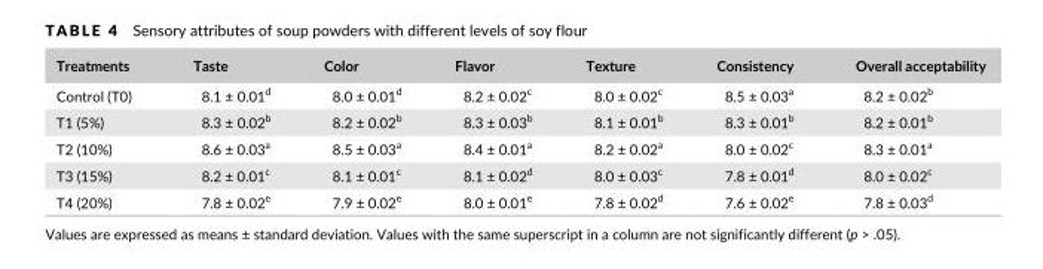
<table><thead><tr><td>Treatments</td><td>Taste</td><td>Color</td><td>Flavor</td><td>Texture</td><td>Consistency</td><td>Overall acceptability</td></tr></thead><tbody><tr><td>Control (T0)</td><td>8.1 ± 0.01<sup>d</sup></td><td>8.0 ± 0.01<sup>d</sup></td><td>8.2 ± 0.02<sup>c</sup></td><td>8.0 ± 0.02<sup>c</sup></td><td>8.5 ± 0.03<sup>a</sup></td><td>8.2 ± 0.02<sup>b</sup></td></tr><tr><td>T1 (5%)</td><td>8.3 ± 0.02<sup>b</sup></td><td>8.2 ± 0.02<sup>b</sup></td><td>8.3 ± 0.03<sup>b</sup></td><td>8.1 ± 0.01<sup>b</sup></td><td>8.3 ± 0.01<sup>b</sup></td><td>8.2 ± 0.01<sup>b</sup></td></tr><tr><td>T2 (10%)</td><td>8.6 ± 0.03<sup>a</sup></td><td>8.5 ± 0.03<sup>a</sup></td><td>8.4 ± 0.01<sup>a</sup></td><td>8.2 ± 0.02<sup>a</sup></td><td>8.0 ± 0.02<sup>c</sup></td><td>8.3 ± 0.01<sup>a</sup></td></tr><tr><td>T3 (15%)</td><td>8.2 ± 0.01<sup>c</sup></td><td>8.1 ± 0.01<sup>c</sup></td><td>8.1 ± 0.02<sup>d</sup></td><td>8.0 ± 0.03<sup>c</sup></td><td>7.8 ± 0.01<sup>d</sup></td><td>8.0 ± 0.02<sup>c</sup></td></tr><tr><td>T4 (20%)</td><td>7.8 ± 0.02<sup>e</sup></td><td>7.9 ± 0.02<sup>e</sup></td><td>8.0 ± 0.01<sup>e</sup></td><td>7.8 ± 0.02<sup>d</sup></td><td>7.6 ± 0.02<sup>e</sup></td><td>7.8 ± 0.03<sup>d</sup></td></tr></tbody></table>